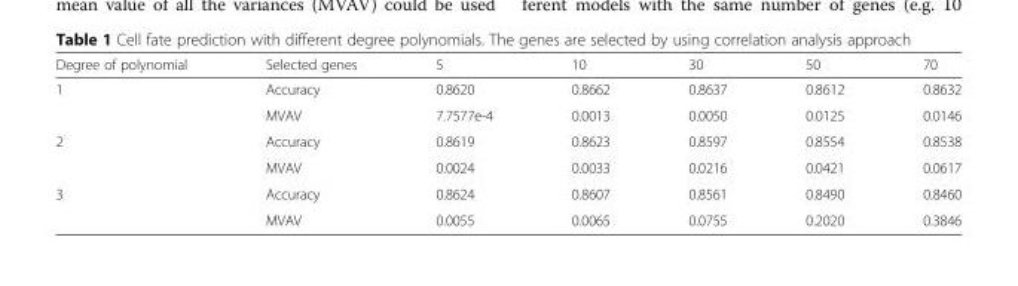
<table><thead><tr><td>Degree of polynomial</td><td>Selected genes</td><td>5</td><td>10</td><td>30</td><td>50</td><td>70</td></tr></thead><tbody><tr><td rowspan="2">1</td><td>Accuracy</td><td>0.8620</td><td>0.8662</td><td>0.8637</td><td>0.8612</td><td>0.8632</td></tr><tr><td>MVAV</td><td>7.7577e-4</td><td>0.0013</td><td>0.0050</td><td>0.0125</td><td>0.0146</td></tr><tr><td rowspan="2">2</td><td>Accuracy</td><td>0.8619</td><td>0.8623</td><td>0.8597</td><td>0.8554</td><td>0.8538</td></tr><tr><td>MVAV</td><td>0.0024</td><td>0.0033</td><td>0.0216</td><td>0.0421</td><td>0.0617</td></tr><tr><td rowspan="2">3</td><td>Accuracy</td><td>0.8624</td><td>0.8607</td><td>0.8561</td><td>0.8490</td><td>0.8460</td></tr><tr><td>MVAV</td><td>0.0055</td><td>0.0065</td><td>0.0755</td><td>0.2020</td><td>0.3846</td></tr></tbody></table>